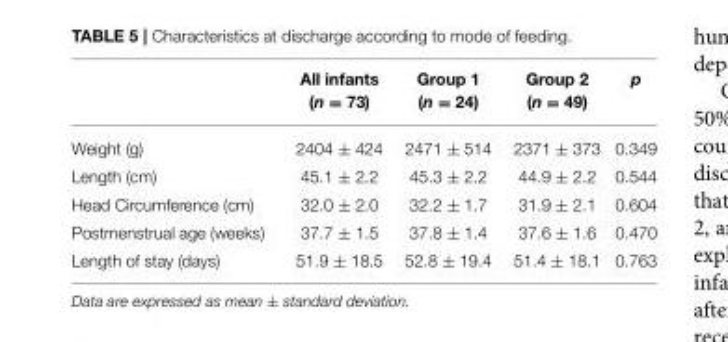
<table><thead><tr><td></td><td>All infants (n = 73)</td><td>Group 1 (n = 24)</td><td>Group 2 (n = 49)</td><td>p</td></tr></thead><tbody><tr><td>Weight (g)</td><td>2404 ± 424</td><td>2471 ± 514</td><td>2371 ± 373</td><td>0.349</td></tr><tr><td>Length (cm)</td><td>45.1 ± 2.2</td><td>45.3 ± 2.2</td><td>44.9 ± 2.2</td><td>0.544</td></tr><tr><td>Head Circumference (cm)</td><td>32.0 ± 2.0</td><td>32.2 ± 1.7</td><td>31.9 ± 2.1</td><td>0.604</td></tr><tr><td>Postmenstrual age (weeks)</td><td>37.7 ± 1.5</td><td>37.8 ± 1.4</td><td>37.6 ± 1.6</td><td>0.470</td></tr><tr><td>Length of stay (days)</td><td>51.9 ± 18.5</td><td>52.8 ± 19.4</td><td>51.4 ± 18.1</td><td>0.763</td></tr></tbody></table>